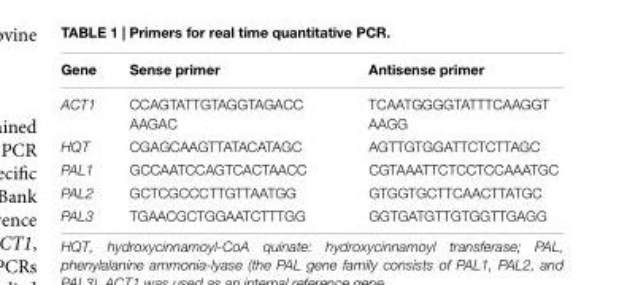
<table><thead><tr><td>Gene</td><td>Sense primer</td><td>Antisense primer</td></tr></thead><tbody><tr><td>ACT1</td><td>CCAGTATTGTAGGTAGACC AAGAC</td><td>TCAATGGGGTATTTCAAGGT AAGG</td></tr><tr><td>HQT</td><td>CGAGCAAGTTATACATAGC</td><td>AGTTGTGGATTCTCTTAGC</td></tr><tr><td>PAL1</td><td>GCCAATCCAGTCACTAACC</td><td>CGTAAATTCTCCTCCAAATGC</td></tr><tr><td>PAL2</td><td>GCTCGCCCTTGTTAATGG</td><td>GTGGTGCTTCAACTTATGC</td></tr><tr><td>PAL3</td><td>TGAACGCTGGAATCTTTGG</td><td>GGTGATGTTGTGGTTGAGG</td></tr></tbody></table>